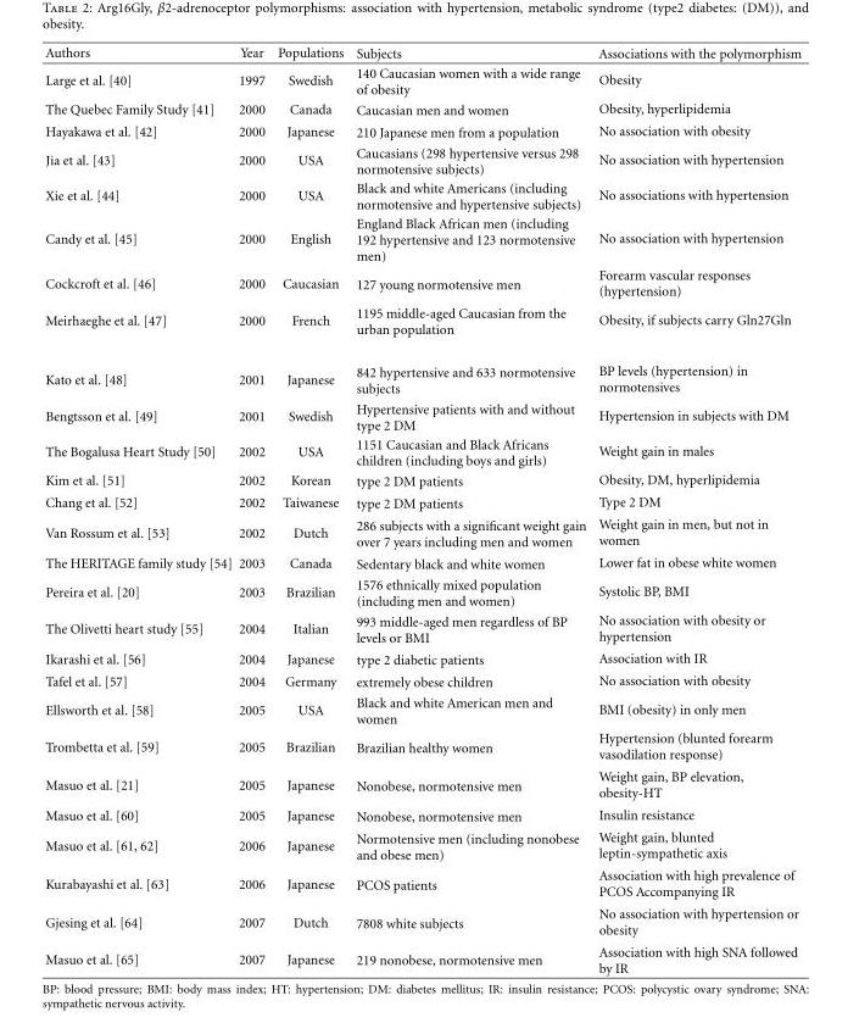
<table><thead><tr><td>Authors</td><td>Year</td><td>Populations</td><td>Subjects</td><td>Associations with the polymorphism</td></tr></thead><tbody><tr><td>Large et al. [40]</td><td>1997</td><td>Swedish</td><td>140 Caucasian women with a wide range of obesity</td><td>Obesity</td></tr><tr><td>The Quebec Family Study [41]</td><td>2000</td><td>Canada</td><td>Caucasian men and women</td><td>Obesity, hyperlipidemia</td></tr><tr><td>Hayakawa et al. [42]</td><td>2000</td><td>Japanese</td><td>210 Japanese men from a population</td><td>No association with obesity</td></tr><tr><td>Jia et al. [43]</td><td>2000</td><td>USA</td><td>Caucasians (298 hypertensive versus 298 normotensive subjects)</td><td>No association with hypertension</td></tr><tr><td>Xie et al. [44]</td><td>2000</td><td>USA</td><td>Black and white Americans (including normotensive and hypertensive subjects)</td><td>No associations with hypertension</td></tr><tr><td>Candy et al. [45]</td><td>2000</td><td>English</td><td>England Black African men (including 192 hypertensive and 123 normotensive men)</td><td>No association with hypertension</td></tr><tr><td>Cockcroft et al. [46]</td><td>2000</td><td>Caucasian</td><td>127 young normotensive men</td><td>Forearm vascular responses (hypertension)</td></tr><tr><td>Meirhaeghe et al. [47]</td><td>2000</td><td>French</td><td>1195 middle-aged Caucasian from the urban population</td><td>Obesity, if subjects carry Gln27Gln</td></tr><tr><td>Kato et al. [48]</td><td>2001</td><td>Japanese</td><td>842 hypertensive and 633 normotensive subjects</td><td>BP levels (hypertension) in normotensives</td></tr><tr><td>Bengtsson et al. [49]</td><td>2001</td><td>Swedish</td><td>Hypertensive patients with and without type 2 DM</td><td>Hypertension in subjects with DM</td></tr><tr><td>The Bogalusa Heart Study [50]</td><td>2002</td><td>USA</td><td>1151 Caucasian and Black Africans children (including boys and girls)</td><td>Weight gain in males</td></tr><tr><td>Kim et al. [51]</td><td>2002</td><td>Korean</td><td>type 2 DM patients</td><td>Obesity, DM, hyperlipidemia</td></tr><tr><td>Chang et al. [52]</td><td>2002</td><td>Taiwanese</td><td>type 2 DM patients</td><td>Type 2 DM</td></tr><tr><td>Van Rossum et al. [53]</td><td>2002</td><td>Dutch</td><td>286 subjects with a significant weight gain over 7 years including men and women</td><td>Weight gain in men, but not in women</td></tr><tr><td>The HERITAGE family study [54]</td><td>2003</td><td>Canada</td><td>Sedentary black and white women</td><td>Lower fat in obese white women</td></tr><tr><td>Pereira et al. [20]</td><td>2003</td><td>Brazilian</td><td>1576 ethnically mixed population (including men and women)</td><td>Systolic BP, BMI</td></tr><tr><td>The Olivetti heart study [55]</td><td>2004</td><td>Italian</td><td>993 middle-aged men regardless of BP levels or BMI</td><td>No association with obesity or hypertension</td></tr><tr><td>Ikarashi et al. [56]</td><td>2004</td><td>Japanese</td><td>type 2 diabetic patients</td><td>Association with IR</td></tr><tr><td>Tafel et al. [57]</td><td>2004</td><td>Germany</td><td>extremely obese children</td><td>No association with obesity</td></tr><tr><td>Ellsworth et al. [58]</td><td>2005</td><td>USA</td><td>Black and white American men and women</td><td>BMI (obesity) in only men</td></tr><tr><td>Trombetta et al. [59]</td><td>2005</td><td>Brazilian</td><td>Brazilian healthy women</td><td>Hypertension (blunted forearm vasodilation response)</td></tr><tr><td>Masuo et al. [21]</td><td>2005</td><td>Japanese</td><td>Nonobese, normotensive men</td><td>Weight gain, BP elevation, obesity-HT</td></tr><tr><td>Masuo et al. [60]</td><td>2005</td><td>Japanese</td><td>Nonobese, normotensive men</td><td>Insulin resistance</td></tr><tr><td>Masuo et al. [61, 62]</td><td>2006</td><td>Japanese</td><td>Normotensive men (including nonobese and obese men)</td><td>Weight gain, blunted leptin-sympathetic axis</td></tr><tr><td>Kurabayashi et al. [63]</td><td>2006</td><td>Japanese</td><td>PCOS patients</td><td>Association with high prevalence of PCOS Accompanying IR</td></tr><tr><td>Gjesing et al. [64]</td><td>2007</td><td>Dutch</td><td>7808 white subjects</td><td>No association with hypertension or obesity</td></tr><tr><td>Masuo et al. [65]</td><td>2007</td><td>Japanese</td><td>219 nonobese, normotensive men</td><td>Association with high SNA followed by IR</td></tr></tbody></table>